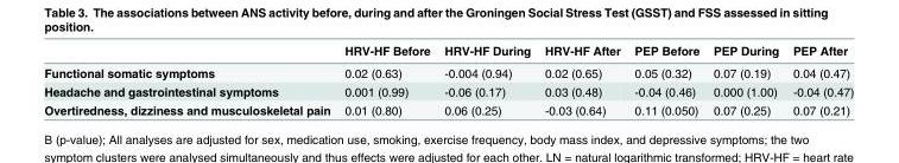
<table><thead><tr><td></td><td>HRV-HF Before</td><td>HRV-HF During</td><td>HRV-HF After</td><td>PEP Before</td><td>PEP During</td><td>PEP After</td></tr></thead><tbody><tr><td>Functional somatic symptoms</td><td>0.02 (0.63)</td><td>-0.004 (0.94)</td><td>0.02 (0.65)</td><td>0.05 (0.32)</td><td>0.07 (0.19)</td><td>0.04 (0.47)</td></tr><tr><td>Headache and gastrointestinal symptoms</td><td>0.001 (0.99)</td><td>-0.06 (0.17)</td><td>0.03 (0.48)</td><td>-0.04 (0.46)</td><td>0.000 (1.00)</td><td>-0.04 (0.47)</td></tr><tr><td>Overtiredness, dizziness and musculoskeletal pain</td><td>0.01 (0.80)</td><td>0.06 (0.25)</td><td>-0.03 (0.64)</td><td>0.11 (0.050)</td><td>0.07 (0.25)</td><td>0.07 (0.21)</td></tr></tbody></table>